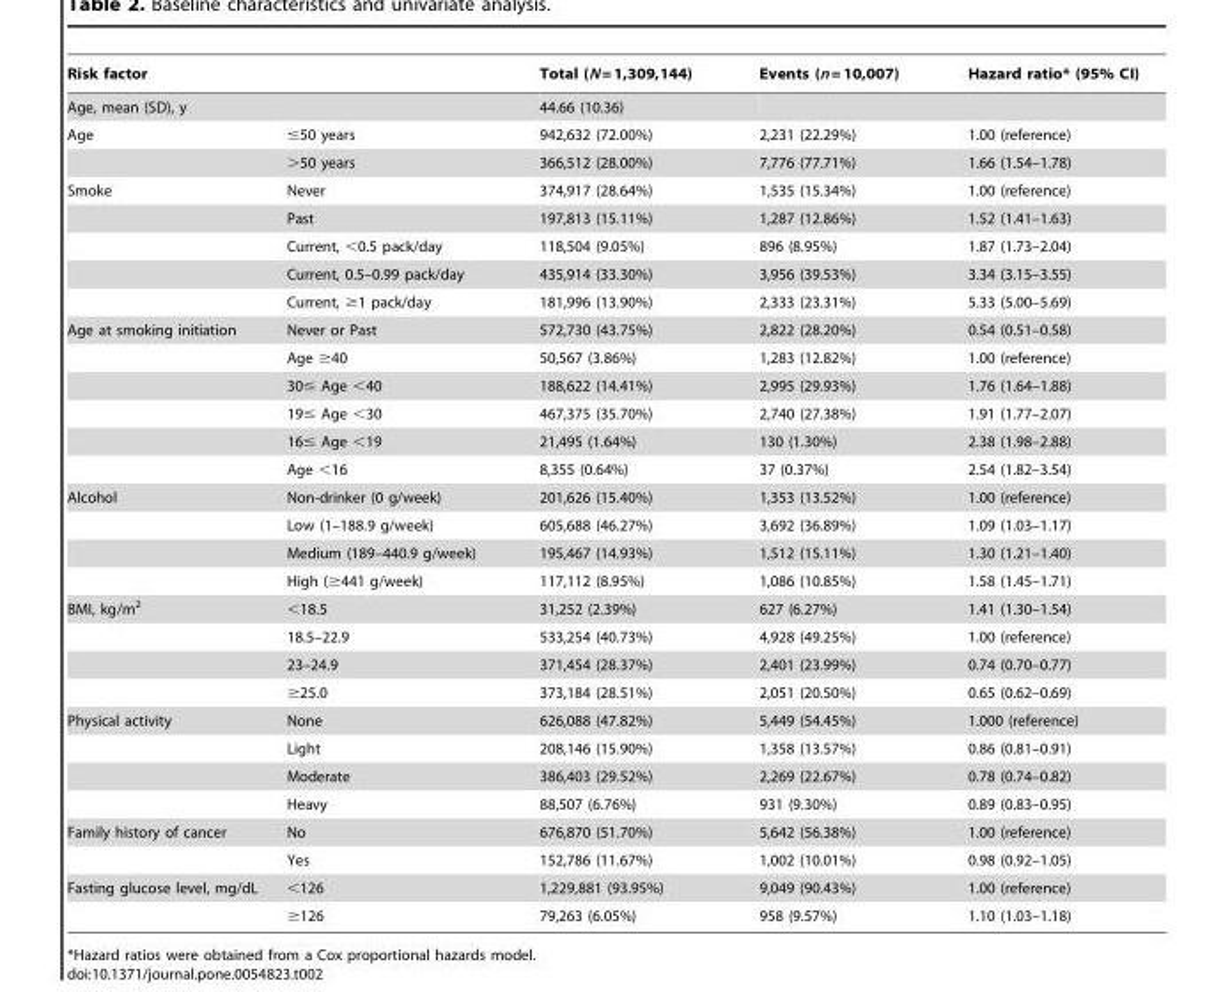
<table><thead><tr><td colspan="2">Risk factor</td><td rowspan="2">Total (N = 1,309,144) 44.66 (10.36)</td><td rowspan="2">Events (n = 10,007)</td><td rowspan="2">Hazard ratio* (95% CI)</td></tr><tr><td>Age, mean (SD), y</td><td></td></tr></thead><tbody><tr><td rowspan="2">Age</td><td>≤50 years</td><td>942,632 (72.00%)</td><td>2,231 (22.29%)</td><td>1.00 (reference)</td></tr><tr><td>&gt;50 years</td><td>366,512 (28.00%)</td><td>7,776 (77.71%)</td><td>1.66 (1.54–1.78)</td></tr><tr><td rowspan="5">Smoke</td><td>Never</td><td>374,917 (28.64%)</td><td>1,535 (15.34%)</td><td>1.00 (reference)</td></tr><tr><td>Past</td><td>197,813 (15.11%)</td><td>1,287 (12.86%)</td><td>1.52 (1.41–1.63)</td></tr><tr><td>Current, &lt;0.5 pack/day</td><td>118,504 (9.05%)</td><td>896 (8.95%)</td><td>1.87 (1.73–2.04)</td></tr><tr><td>Current, 0.5–0.99 pack/day</td><td>435,914 (33.30%)</td><td>3,956 (39.53%)</td><td>3.34 (3.15–3.55)</td></tr><tr><td>Current, ≥1 pack/day</td><td>181,996 (13.90%)</td><td>2,333 (23.31%)</td><td>5.33 (5.00–5.69)</td></tr><tr><td rowspan="6">Age at smoking initiation</td><td>Never or Past</td><td>572,730 (43.75%)</td><td>2,822 (28.20%)</td><td>0.54 (0.51–0.58)</td></tr><tr><td>Age ≥40</td><td>50,567 (3.86%)</td><td>1,283 (12.82%)</td><td>1.00 (reference)</td></tr><tr><td>30≤ Age &lt;40</td><td>188,622 (14.41%)</td><td>2,995 (29.93%)</td><td>1.76 (1.64–1.88)</td></tr><tr><td>19≤ Age &lt;30</td><td>467,375 (35.70%)</td><td>2,740 (27.38%)</td><td>1.91 (1.77–2.07)</td></tr><tr><td>16≤ Age &lt;19</td><td>21,495 (1.64%)</td><td>130 (1.30%)</td><td>2.38 (1.98–2.88)</td></tr><tr><td>Age &lt;16</td><td>8,355 (0.64%)</td><td>37 (0.37%)</td><td>2.54 (1.82–3.54)</td></tr><tr><td rowspan="4">Alcohol</td><td>Non-drinker (0 g/week)</td><td>201,626 (15.40%)</td><td>1,353 (13.52%)</td><td>1.00 (reference)</td></tr><tr><td>Low (1–188.9 g/week)</td><td>605,688 (46.27%)</td><td>3,692 (36.89%)</td><td>1.09 (1.03–1.17)</td></tr><tr><td>Medium (189–440.9 g/week)</td><td>195,467 (14.93%)</td><td>1,512 (15.11%)</td><td>1.30 (1.21–1.40)</td></tr><tr><td>High (≥441 g/week)</td><td>117,112 (8.95%)</td><td>1,086 (10.85%)</td><td>1.58 (1.45–1.71)</td></tr><tr><td rowspan="4">BMI, kg/m<sup>2</sup></td><td>&lt;18.5</td><td>31,252 (2.39%)</td><td>627 (6.27%)</td><td>1.41 (1.30–1.54)</td></tr><tr><td>18.5–22.9</td><td>533,254 (40.73%)</td><td>4,928 (49.25%)</td><td>1.00 (reference)</td></tr><tr><td>23–24.9</td><td>371,454 (28.37%)</td><td>2,401 (23.99%)</td><td>0.74 (0.70–0.77)</td></tr><tr><td>≥25.0</td><td>373,184 (28.51%)</td><td>2,051 (20.50%)</td><td>0.65 (0.62–0.69)</td></tr><tr><td rowspan="4">Physical activity</td><td>None</td><td>626,088 (47.82%)</td><td>5,449 (54.45%)</td><td>1.000 (reference)</td></tr><tr><td>Light</td><td>208,146 (15.90%)</td><td>1,358 (13.57%)</td><td>0.86 (0.81–0.91)</td></tr><tr><td>Moderate</td><td>386,403 (29.52%)</td><td>2,269 (22.67%)</td><td>0.78 (0.74–0.82)</td></tr><tr><td>Heavy</td><td>88,507 (6.76%)</td><td>931 (9.30%)</td><td>0.89 (0.83–0.95)</td></tr><tr><td rowspan="2">Family history of cancer</td><td>No</td><td>676,870 (51.70%)</td><td>5,642 (56.38%)</td><td>1.00 (reference)</td></tr><tr><td>Yes</td><td>152,786 (11.67%)</td><td>1,002 (10.01%)</td><td>0.98 (0.92–1.05)</td></tr><tr><td rowspan="2">Fasting glucose level, mg/dL</td><td>&lt;126</td><td>1,229,881 (93.95%)</td><td>9,049 (90.43%)</td><td>1.00 (reference)</td></tr><tr><td>≥126</td><td>79,263 (6.05%)</td><td>958 (9.57%)</td><td>1.10 (1.03–1.18)</td></tr></tbody></table>